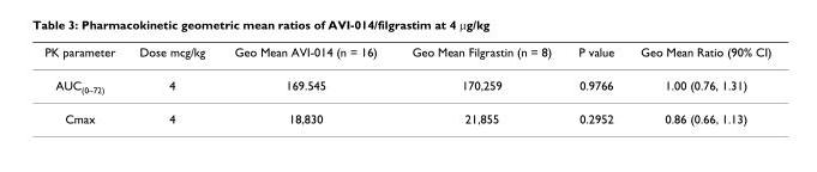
<table><thead><tr><td>PK parameter</td><td>Dose mcg/kg</td><td>Geo Mean AVI-014 (n = 16)</td><td>Geo Mean Filgrastin (n = 8)</td><td>P value</td><td>Geo Mean Ratio (90% CI)</td></tr></thead><tbody><tr><td>AUC<sub>(0–72)</sub></td><td>4</td><td>169.545</td><td>170,259</td><td>0.9766</td><td>1.00 (0.76, 1.31)</td></tr><tr><td>Cmax</td><td>4</td><td>18,830</td><td>21,855</td><td>0.2952</td><td>0.86 (0.66, 1.13)</td></tr></tbody></table>